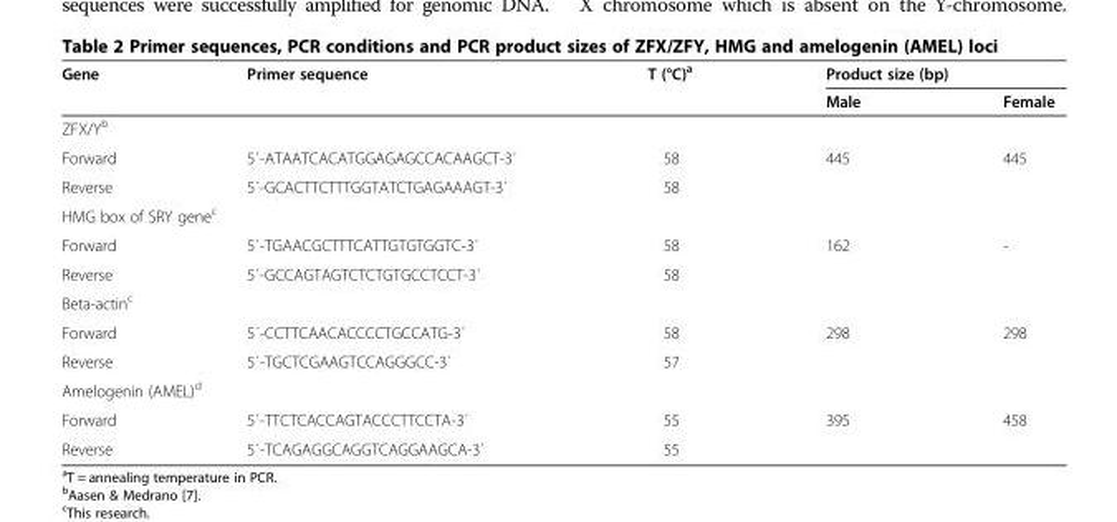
<table><thead><tr><td rowspan="2">Gene</td><td rowspan="2">Primer sequence</td><td rowspan="2">T (°C)<sup>a</sup></td><td colspan="2">Product size (bp)</td></tr><tr><td>Male</td><td>Female</td></tr></thead><tbody><tr><td colspan="5">ZFX/Y<sup>b</sup></td></tr><tr><td>Forward</td><td>5΄-ATAATCACATGGAGAGCCACAAGCT-3΄</td><td>58</td><td rowspan="2">445</td><td rowspan="2">445</td></tr><tr><td>Reverse</td><td>5΄-GCACTTCTTTGGTATCTGAGAAAGT-3΄</td><td>58</td></tr><tr><td colspan="5">HMG box of SRY gene<sup>c</sup></td></tr><tr><td>Forward</td><td>5΄-TGAACGCTTTCATTGTGTGGTC-3΄</td><td>58</td><td rowspan="2">162</td><td rowspan="2">-</td></tr><tr><td>Reverse</td><td>5΄-GCCAGTAGTCTCTGTGCCTCCT-3΄</td><td>58</td></tr><tr><td colspan="5">Beta-actin<sup>c</sup></td></tr><tr><td>Forward</td><td>5΄-CCTTCAACACCCCTGCCATG-3΄</td><td>58</td><td rowspan="2">298</td><td rowspan="2">298</td></tr><tr><td>Reverse</td><td>5΄-TGCTCGAAGTCCAGGGCC-3΄</td><td>57</td></tr><tr><td colspan="5">Amelogenin (AMEL)<sup>d</sup></td></tr><tr><td>Forward</td><td>5΄-TTCTCACCAGTACCCTTCCTA-3΄</td><td>55</td><td rowspan="2">395</td><td rowspan="2">458</td></tr><tr><td>Reverse</td><td>5΄-TCAGAGGCAGGTCAGGAAGCA-3΄</td><td>55</td></tr></tbody></table>